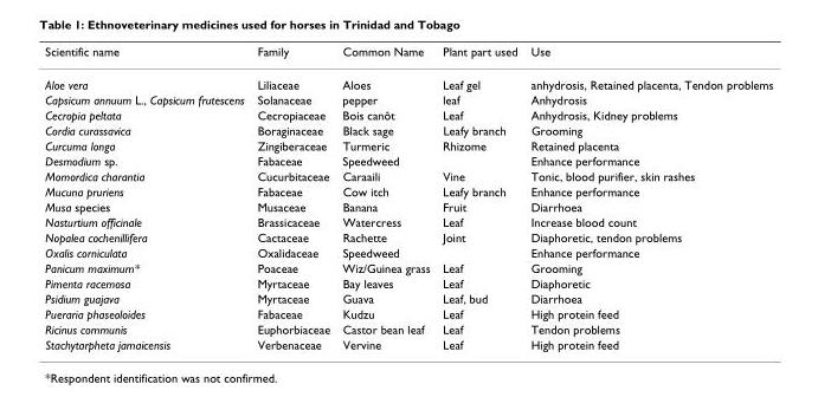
<table><thead><tr><td>Scientific name</td><td>Family</td><td>Common Name</td><td>Plant part used</td><td>Use</td></tr></thead><tbody><tr><td>Aloe vera</td><td>Liliaceae</td><td>Aloes</td><td>Leaf gel</td><td>anhydrosis, Retained placenta, Tendon problems</td></tr><tr><td>Capsicum annuum L., Capsicum frutescens</td><td>Solanaceae</td><td>pepper</td><td>leaf</td><td>Anhydrosis</td></tr><tr><td>Cecropia peltata</td><td>Cecropiaceae</td><td>Bois canôt</td><td>Leaf</td><td>Anhydrosis, Kidney problems</td></tr><tr><td>Cordia curassavica</td><td>Boraginaceae</td><td>Black sage</td><td>Leafy branch</td><td>Grooming</td></tr><tr><td>Curcuma longa</td><td>Zingiberaceae</td><td>Turmeric</td><td>Rhizome</td><td>Retained placenta</td></tr><tr><td>Desmodium sp.</td><td>Fabaceae</td><td>Speedweed</td><td></td><td>Enhance performance</td></tr><tr><td>Momordica charantia</td><td>Cucurbitaceae</td><td>Caraaili</td><td>Vine</td><td>Tonic, blood purifier, skin rashes</td></tr><tr><td>Mucuna pruriens</td><td>Fabaceae</td><td>Cow itch</td><td>Leafy branch</td><td>Enhance performance</td></tr><tr><td>Musa species</td><td>Musaceae</td><td>Banana</td><td>Fruit</td><td>Diarrhoea</td></tr><tr><td>Nasturtium officinale</td><td>Brassicaceae</td><td>Watercress</td><td>Leaf</td><td>Increase blood count</td></tr><tr><td>Nopalea cochenillifera</td><td>Cactaceae</td><td>Rachette</td><td>Joint</td><td>Diaphoretic, tendon problems</td></tr><tr><td>Oxalis corniculata</td><td>Oxalidaceae</td><td>Speedweed</td><td></td><td>Enhance performance</td></tr><tr><td>Panicum maximum*</td><td>Poaceae</td><td>Wiz/Guinea grass</td><td>Leaf</td><td>Grooming</td></tr><tr><td>Pimenta racemosa</td><td>Myrtaceae</td><td>Bay leaves</td><td>Leaf</td><td>Diaphoretic</td></tr><tr><td>Psidium guajava</td><td>Myrtaceae</td><td>Guava</td><td>Leaf, bud</td><td>Diarrhoea</td></tr><tr><td>Pueraria phaseoloides</td><td>Fabaceae</td><td>Kudzu</td><td>Leaf</td><td>High protein feed</td></tr><tr><td>Ricinus communis</td><td>Euphorbiaceae</td><td>Castor bean leaf</td><td>Leaf</td><td>Tendon problems</td></tr><tr><td>Stachytarpheta jamaicensis</td><td>Verbenaceae</td><td>Vervine</td><td>Leaf</td><td>High protein feed</td></tr></tbody></table>